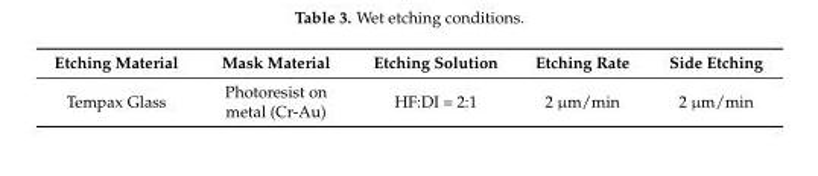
<table><thead><tr><td>Etching Material</td><td>Mask Material</td><td>Etching Solution</td><td>Etching Rate</td><td>Side Etching</td></tr></thead><tbody><tr><td>Tempax Glass</td><td>Photoresist on metal (Cr-Au)</td><td>HF:DI = 2:1</td><td>2 µm/min</td><td>2 µm/min</td></tr></tbody></table>